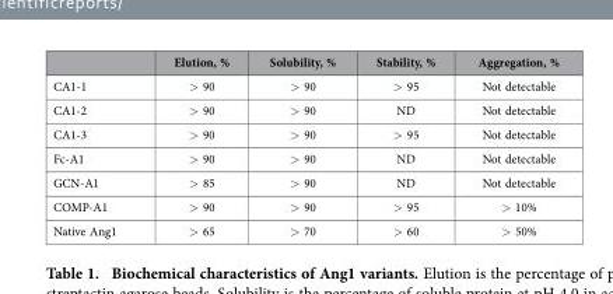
<table><thead><tr><td></td><td>Elution, %</td><td>Solubility, %</td><td>Stability, %</td><td>Aggregation, %</td></tr></thead><tbody><tr><td>CA1-1</td><td>&gt; 90</td><td>&gt; 90</td><td>&gt; 95</td><td>Not detectable</td></tr><tr><td>CA1-2</td><td>&gt; 90</td><td>&gt; 90</td><td>ND</td><td>Not detectable</td></tr><tr><td>CA1-3</td><td>&gt; 90</td><td>&gt; 90</td><td>&gt; 95</td><td>Not detectable</td></tr><tr><td>Fc-A1</td><td>&gt; 90</td><td>&gt; 90</td><td>ND</td><td>Not detectable</td></tr><tr><td>GCN-A1</td><td>&gt; 85</td><td>&gt; 90</td><td>ND</td><td>Not detectable</td></tr><tr><td>COMP-A1</td><td>&gt; 90</td><td>&gt; 90</td><td>&gt; 95</td><td>&gt; 10%</td></tr><tr><td>Native Ang1</td><td>&gt; 65</td><td>&gt; 70</td><td>&gt; 60</td><td>&gt; 50%</td></tr></tbody></table>